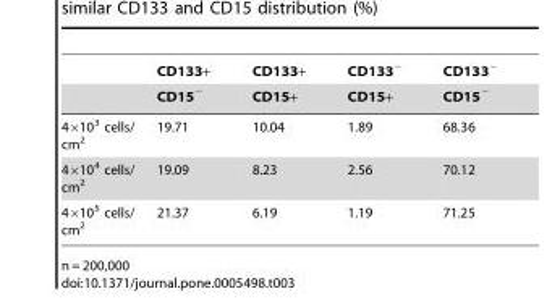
<table><thead><tr><td rowspan="2"></td><td rowspan="2">CD133+ CD15<sup>−</sup></td><td rowspan="2">CD133+ CD15+</td><td rowspan="2">CD133<sup>−</sup> CD15+</td><td rowspan="2">CD133<sup>−</sup> CD15<sup>−</sup></td></tr><tr></tr></thead><tbody><tr><td>4×10<sup>3</sup> cells/ cm<sup>2</sup></td><td>19.71</td><td>10.04</td><td>1.89</td><td>68.36</td></tr><tr><td>4×10<sup>4</sup> cells/ cm<sup>2</sup></td><td>19.09</td><td>8.23</td><td>2.56</td><td>70.12</td></tr><tr><td>4×10<sup>5</sup> cells/ cm<sup>2</sup></td><td>21.37</td><td>6.19</td><td>1.19</td><td>71.25</td></tr></tbody></table>